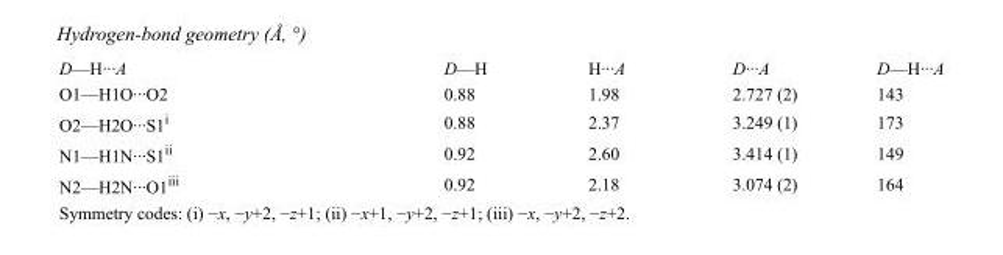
<table><tbody><tr><td>D—H···A</td><td>D—H</td><td>H···A</td><td>D···A</td><td>D—H···A</td></tr><tr><td>O1—H1O···O2</td><td>0.88</td><td>1.98</td><td>2.727 (2)</td><td>143</td></tr><tr><td>O2—H2O···S1<sup>i</sup></td><td>0.88</td><td>2.37</td><td>3.249 (1)</td><td>173</td></tr><tr><td>N1—H1N···S1<sup>ii</sup></td><td>0.92</td><td>2.60</td><td>3.414 (1)</td><td>149</td></tr><tr><td>N2—H2N···O1<sup>iii</sup></td><td>0.92</td><td>2.18</td><td>3.074 (2)</td><td>164</td></tr></tbody></table>